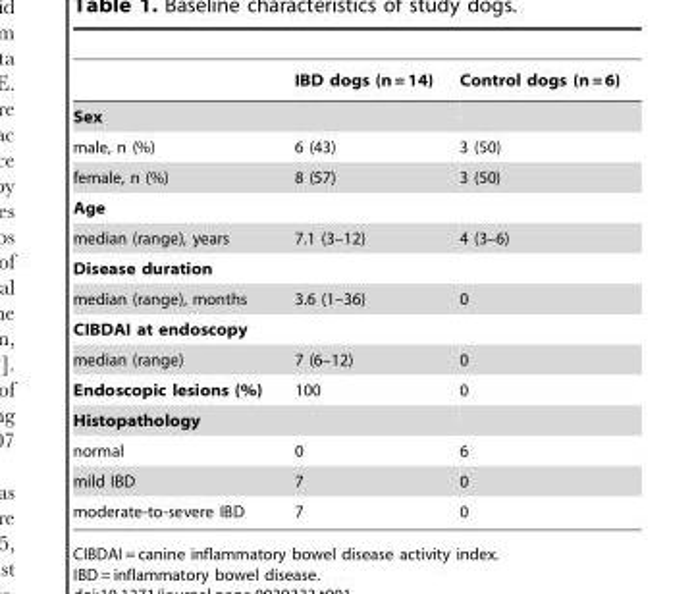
<table><thead><tr><td></td><td>IBD dogs (n = 14)</td><td>Control dogs (n = 6)</td></tr></thead><tbody><tr><td colspan="3">Sex</td></tr><tr><td>male, n (%)</td><td>6 (43)</td><td>3 (50)</td></tr><tr><td>female, n (%)</td><td>8 (57)</td><td>3 (50)</td></tr><tr><td colspan="3">Age</td></tr><tr><td>median (range), years</td><td>7.1 (3–12)</td><td>4 (3–6)</td></tr><tr><td colspan="3">Disease duration</td></tr><tr><td>median (range), months</td><td>3.6 (1–36)</td><td>0</td></tr><tr><td colspan="3">CIBDAI at endoscopy</td></tr><tr><td>median (range)</td><td>7 (6–12)</td><td>0</td></tr><tr><td>Endoscopic lesions (%)</td><td>100</td><td>0</td></tr><tr><td colspan="3">Histopathology</td></tr><tr><td>normal</td><td>0</td><td>6</td></tr><tr><td>mild IBD</td><td>7</td><td>0</td></tr><tr><td>moderate-to-severe IBD</td><td>7</td><td>0</td></tr></tbody></table>